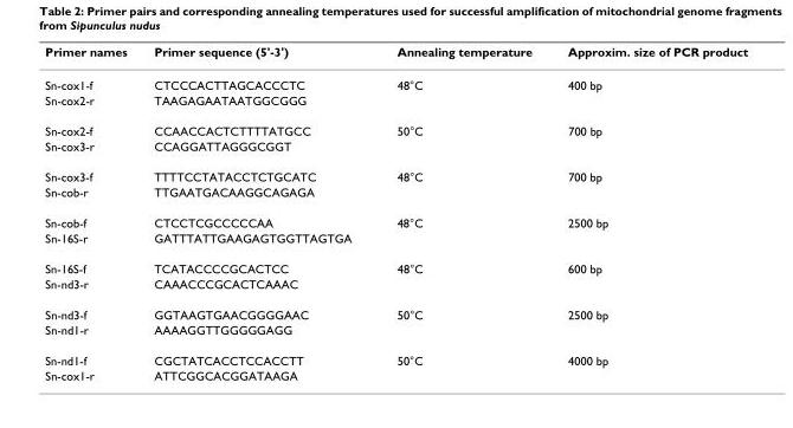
<table><thead><tr><td>Primer names</td><td>Primer sequence (5&#x27;-3&#x27;)</td><td>Annealing temperature</td><td>Approxim. size of PCR product</td></tr></thead><tbody><tr><td>Sn-cox1-f</td><td>CTCCCACTTAGCACCCTC</td><td>48°C</td><td>400 bp</td></tr><tr><td>Sn-cox2-r</td><td>TAAGAGAATAATGGCGGG</td><td></td><td></td></tr><tr><td>Sn-cox2-f</td><td>CCAACCACTCTTTTATGCC</td><td>50°C</td><td>700 bp</td></tr><tr><td>Sn-cox3-r</td><td>CCAGGATTAGGGCGGT</td><td></td><td></td></tr><tr><td>Sn-cox3-f</td><td>TTTTCCTATACCTCTGCATC</td><td>48°C</td><td>700 bp</td></tr><tr><td>Sn-cob-r</td><td>TTGAATGACAAGGCAGAGA</td><td></td><td></td></tr><tr><td>Sn-cob-f</td><td>CTCCTCGCCCCCAA</td><td>48°C</td><td>2500 bp</td></tr><tr><td>Sn-16S-r</td><td>GATTTATTGAAGAGTGGTTAGTGA</td><td></td><td></td></tr><tr><td>Sn-16S-f</td><td>TCATACCCCGCACTCC</td><td>48°C</td><td>600 bp</td></tr><tr><td>Sn-nd3-r</td><td>CAAACCCGCACTCAAAC</td><td></td><td></td></tr><tr><td>Sn-nd3-f</td><td>GGTAAGTGAACGGGGAAC</td><td>50°C</td><td>2500 bp</td></tr><tr><td>Sn-nd1-r</td><td>AAAAGGTTGGGGGAGG</td><td></td><td></td></tr><tr><td>Sn-nd1-f</td><td>CGCTATCACCTCCACCTT</td><td>50°C</td><td>4000 bp</td></tr><tr><td>Sn-cox1-r</td><td>ATTCGGCACGGATAAGA</td><td></td><td></td></tr></tbody></table>